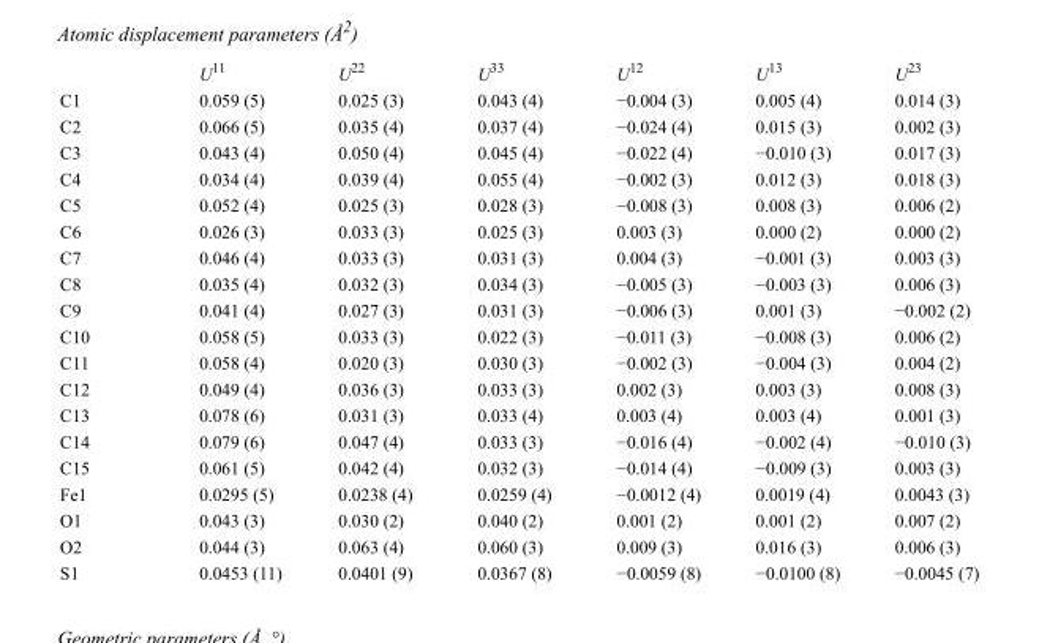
<table><thead><tr><td></td><td>U<sup>11</sup></td><td>U<sup>22</sup></td><td>U<sup>33</sup></td><td>U<sup>12</sup></td><td>U<sup>13</sup></td><td>U<sup>23</sup></td></tr></thead><tbody><tr><td>C1</td><td>0.059 (5)</td><td>0.025 (3)</td><td>0.043 (4)</td><td>−0.004 (3)</td><td>0.005 (4)</td><td>0.014 (3)</td></tr><tr><td>C2</td><td>0.066 (5)</td><td>0.035 (4)</td><td>0.037 (4)</td><td>−0.024 (4)</td><td>0.015 (3)</td><td>0.002 (3)</td></tr><tr><td>C3</td><td>0.043 (4)</td><td>0.050 (4)</td><td>0.045 (4)</td><td>−0.022 (4)</td><td>−0.010 (3)</td><td>0.017 (3)</td></tr><tr><td>C4</td><td>0.034 (4)</td><td>0.039 (4)</td><td>0.055 (4)</td><td>−0.002 (3)</td><td>0.012 (3)</td><td>0.018 (3)</td></tr><tr><td>C5</td><td>0.052 (4)</td><td>0.025 (3)</td><td>0.028 (3)</td><td>−0.008 (3)</td><td>0.008 (3)</td><td>0.006 (2)</td></tr><tr><td>C6</td><td>0.026 (3)</td><td>0.033 (3)</td><td>0.025 (3)</td><td>0.003 (3)</td><td>0.000 (2)</td><td>0.000 (2)</td></tr><tr><td>C7</td><td>0.046 (4)</td><td>0.033 (3)</td><td>0.031 (3)</td><td>0.004 (3)</td><td>−0.001 (3)</td><td>0.003 (3)</td></tr><tr><td>C8</td><td>0.035 (4)</td><td>0.032 (3)</td><td>0.034 (3)</td><td>−0.005 (3)</td><td>−0.003 (3)</td><td>0.006 (3)</td></tr><tr><td>C9</td><td>0.041 (4)</td><td>0.027 (3)</td><td>0.031 (3)</td><td>−0.006 (3)</td><td>0.001 (3)</td><td>−0.002 (2)</td></tr><tr><td>C10</td><td>0.058 (5)</td><td>0.033 (3)</td><td>0.022 (3)</td><td>−0.011 (3)</td><td>−0.008 (3)</td><td>0.006 (2)</td></tr><tr><td>C11</td><td>0.058 (4)</td><td>0.020 (3)</td><td>0.030 (3)</td><td>−0.002 (3)</td><td>−0.004 (3)</td><td>0.004 (2)</td></tr><tr><td>C12</td><td>0.049 (4)</td><td>0.036 (3)</td><td>0.033 (3)</td><td>0.002 (3)</td><td>0.003 (3)</td><td>0.008 (3)</td></tr><tr><td>C13</td><td>0.078 (6)</td><td>0.031 (3)</td><td>0.033 (4)</td><td>0.003 (4)</td><td>0.003 (4)</td><td>0.001 (3)</td></tr><tr><td>C14</td><td>0.079 (6)</td><td>0.047 (4)</td><td>0.033 (3)</td><td>−0.016 (4)</td><td>−0.002 (4)</td><td>−0.010 (3)</td></tr><tr><td>C15</td><td>0.061 (5)</td><td>0.042 (4)</td><td>0.032 (3)</td><td>−0.014 (4)</td><td>−0.009 (3)</td><td>0.003 (3)</td></tr><tr><td>Fe1</td><td>0.0295 (5)</td><td>0.0238 (4)</td><td>0.0259 (4)</td><td>−0.0012 (4)</td><td>0.0019 (4)</td><td>0.0043 (3)</td></tr><tr><td>O1</td><td>0.043 (3)</td><td>0.030 (2)</td><td>0.040 (2)</td><td>0.001 (2)</td><td>0.001 (2)</td><td>0.007 (2)</td></tr><tr><td>O2</td><td>0.044 (3)</td><td>0.063 (4)</td><td>0.060 (3)</td><td>0.009 (3)</td><td>0.016 (3)</td><td>0.006 (3)</td></tr><tr><td>S1</td><td>0.0453 (11)</td><td>0.0401 (9)</td><td>0.0367 (8)</td><td>−0.0059 (8)</td><td>−0.0100 (8)</td><td>−0.0045 (7)</td></tr></tbody></table>